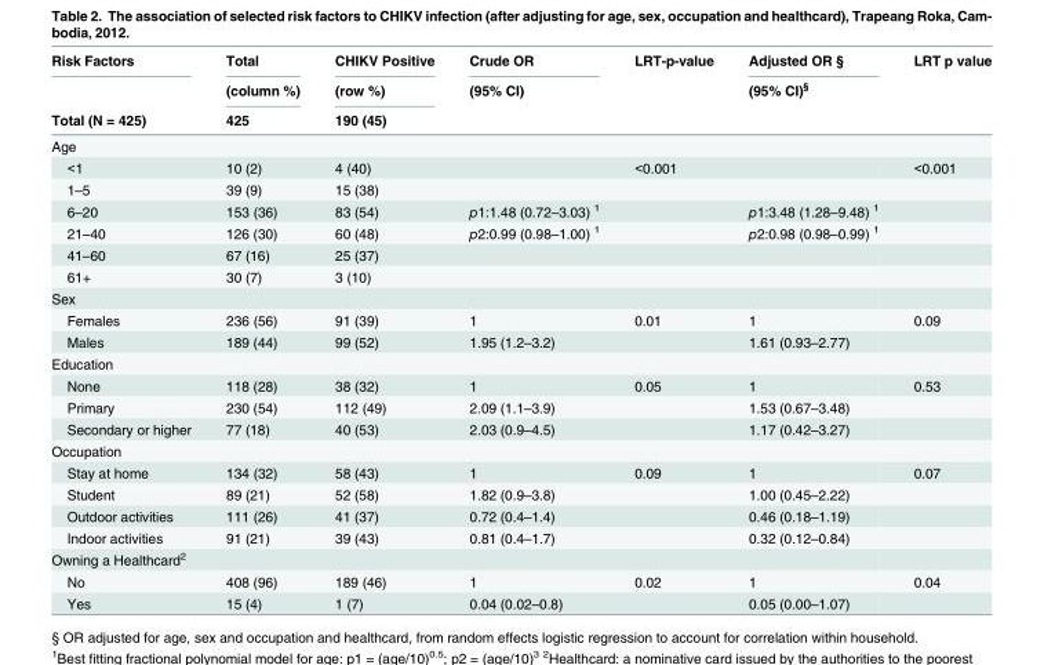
<table><thead><tr><td rowspan="3">Risk Factors Total (N = 425)</td><td rowspan="3">Total (column %) 425</td><td rowspan="3">CHIKV Positive (row %) 190 (45)</td><td rowspan="3">Crude OR (95% CI)</td><td rowspan="3">LRT-p-value</td><td rowspan="3">Adjusted OR § (95% CI)<sup>§</sup></td><td rowspan="3">LRT p value</td></tr><tr></tr><tr></tr></thead><tbody><tr><td colspan="7">Age</td></tr><tr><td>&lt;1</td><td>10 (2)</td><td>4 (40)</td><td></td><td>&lt;0.001</td><td></td><td>&lt;0.001</td></tr><tr><td>1–5</td><td>39 (9)</td><td>15 (38)</td><td></td><td></td><td></td><td></td></tr><tr><td>6–20</td><td>153 (36)</td><td>83 (54)</td><td>p1:1.48 (0.72–3.03) <sup>1</sup></td><td></td><td>p1:3.48 (1.28–9.48) <sup>1</sup></td><td></td></tr><tr><td>21–40</td><td>126 (30)</td><td>60 (48)</td><td>p2:0.99 (0.98–1.00) <sup>1</sup></td><td></td><td>p2:0.98 (0.98–0.99) <sup>1</sup></td><td></td></tr><tr><td>41–60</td><td>67 (16)</td><td>25 (37)</td><td></td><td></td><td></td><td></td></tr><tr><td>61+</td><td>30 (7)</td><td>3 (10)</td><td></td><td></td><td></td><td></td></tr><tr><td colspan="7">Sex</td></tr><tr><td>Females</td><td>236 (56)</td><td>91 (39)</td><td>1</td><td>0.01</td><td>1</td><td>0.09</td></tr><tr><td>Males</td><td>189 (44)</td><td>99 (52)</td><td>1.95 (1.2–3.2)</td><td></td><td>1.61 (0.93–2.77)</td><td></td></tr><tr><td colspan="7">Education</td></tr><tr><td>None</td><td>118 (28)</td><td>38 (32)</td><td>1</td><td>0.05</td><td>1</td><td>0.53</td></tr><tr><td>Primary</td><td>230 (54)</td><td>112 (49)</td><td>2.09 (1.1–3.9)</td><td></td><td>1.53 (0.67–3.48)</td><td></td></tr><tr><td>Secondary or higher</td><td>77 (18)</td><td>40 (53)</td><td>2.03 (0.9–4.5)</td><td></td><td>1.17 (0.42–3.27)</td><td></td></tr><tr><td colspan="7">Occupation</td></tr><tr><td>Stay at home</td><td>134 (32)</td><td>58 (43)</td><td>1</td><td>0.09</td><td>1</td><td>0.07</td></tr><tr><td>Student</td><td>89 (21)</td><td>52 (58)</td><td>1.82 (0.9–3.8)</td><td></td><td>1.00 (0.45–2.22)</td><td></td></tr><tr><td>Outdoor activities</td><td>111 (26)</td><td>41 (37)</td><td>0.72 (0.4–1.4)</td><td></td><td>0.46 (0.18–1.19)</td><td></td></tr><tr><td>Indoor activities</td><td>91 (21)</td><td>39 (43)</td><td>0.81 (0.4–1.7)</td><td></td><td>0.32 (0.12–0.84)</td><td></td></tr><tr><td colspan="7">Owning a Healthcard<sup>2</sup></td></tr><tr><td>No</td><td>408 (96)</td><td>189 (46)</td><td>1</td><td>0.02</td><td>1</td><td>0.04</td></tr><tr><td>Yes</td><td>15 (4)</td><td>1 (7)</td><td>0.04 (0.02–0.8)</td><td></td><td>0.05 (0.00–1.07)</td><td></td></tr></tbody></table>